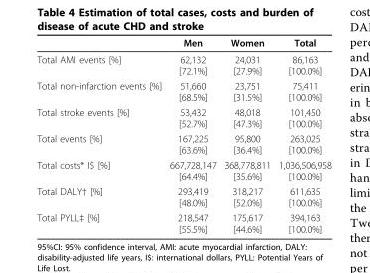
<table><thead><tr><td></td><td>Men</td><td>Women</td><td>Total</td></tr></thead><tbody><tr><td>Total AMI events [%]</td><td>62,132 [72.1%]</td><td>24,031 [27.9%]</td><td>86,163 [100.0%]</td></tr><tr><td>Total non-infarction events [%]</td><td>51,660 [68.5%]</td><td>23,751 [31.5%]</td><td>75,411 [100.0%]</td></tr><tr><td>Total stroke events [%]</td><td>53,432 [52.7%]</td><td>48,018 [47.3%]</td><td>101,450 [100.0%]</td></tr><tr><td>Total events [%]</td><td>167,225 [63.6%]</td><td>95,800 [36.4%]</td><td>263,025 [100.0%]</td></tr><tr><td>Total costs* I$ [%]</td><td>667,728,147 [64.4%]</td><td>368,778,811 [35.6%]</td><td>1,036,506,958 [100.0%]</td></tr><tr><td>Total DALY† [%]</td><td>293,419 [48.0%]</td><td>318,217 [52.0%]</td><td>611,635 [100.0%]</td></tr><tr><td>Total PYLL‡ [%]</td><td>218,547 [55.5%]</td><td>175,617 [44.6%]</td><td>394,163 [100.0%]</td></tr></tbody></table>